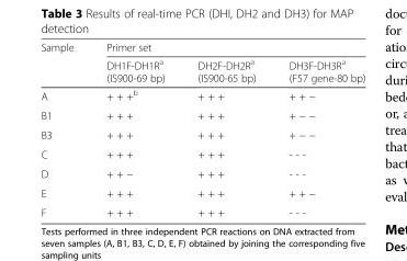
<table><thead><tr><td rowspan="2">Sample</td><td colspan="3">Primer set</td></tr><tr><td>DH1F-DH1R<sup>a</sup> (IS900-69 bp)</td><td>DH2F-DH2R<sup>a</sup> (IS900-65 bp)</td><td>DH3F-DH3R<sup>a</sup> (F57 gene-80 bp)</td></tr></thead><tbody><tr><td>A</td><td>+ + +<sup>b</sup></td><td>+ + +</td><td>+ + −</td></tr><tr><td>B1</td><td>+ + +</td><td>+ + +</td><td>+ − −</td></tr><tr><td>B3</td><td>+ + +</td><td>+ + +</td><td>+ − −</td></tr><tr><td>C</td><td>+ + +</td><td>+ + +</td><td>- - -</td></tr><tr><td>D</td><td>+ + −</td><td>+ + +</td><td>- - -</td></tr><tr><td>E</td><td>+ + +</td><td>+ + +</td><td>+ + −</td></tr><tr><td>F</td><td>+ + +</td><td>+ + +</td><td>- - -</td></tr></tbody></table>